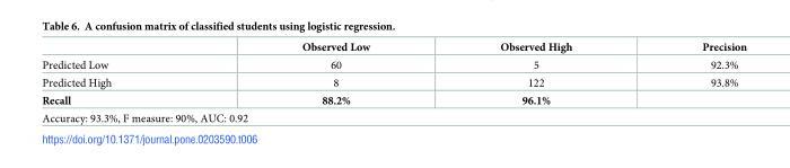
<table><thead><tr><td></td><td>Observed Low</td><td>Observed High</td><td>Precision</td></tr></thead><tbody><tr><td>Predicted Low</td><td>60</td><td>5</td><td>92.3%</td></tr><tr><td>Predicted High</td><td>8</td><td>122</td><td>93.8%</td></tr><tr><td>Recall</td><td>88.2%</td><td>96.1%</td><td></td></tr><tr><td colspan="4">Accuracy: 93.3%, F measure: 90%, AUC: 0.92</td></tr></tbody></table>